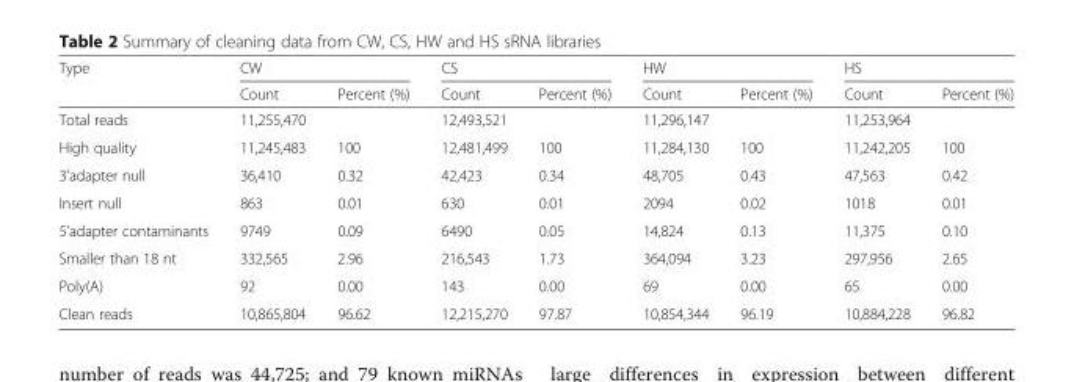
<table><thead><tr><td rowspan="2">Type</td><td colspan="2">CW</td><td colspan="2">CS</td><td colspan="2">HW</td><td colspan="2">HS</td></tr><tr><td>Count</td><td>Percent (%)</td><td>Count</td><td>Percent (%)</td><td>Count</td><td>Percent (%)</td><td>Count</td><td>Percent (%)</td></tr></thead><tbody><tr><td>Total reads</td><td>11,255,470</td><td></td><td>12,493,521</td><td></td><td>11,296,147</td><td></td><td>11,253,964</td><td></td></tr><tr><td>High quality</td><td>11,245,483</td><td>100</td><td>12,481,499</td><td>100</td><td>11,284,130</td><td>100</td><td>11,242,205</td><td>100</td></tr><tr><td>3’adapter null</td><td>36,410</td><td>0.32</td><td>42,423</td><td>0.34</td><td>48,705</td><td>0.43</td><td>47,563</td><td>0.42</td></tr><tr><td>Insert null</td><td>863</td><td>0.01</td><td>630</td><td>0.01</td><td>2094</td><td>0.02</td><td>1018</td><td>0.01</td></tr><tr><td>5’adapter contaminants</td><td>9749</td><td>0.09</td><td>6490</td><td>0.05</td><td>14,824</td><td>0.13</td><td>11,375</td><td>0.10</td></tr><tr><td>Smaller than 18 nt</td><td>332,565</td><td>2.96</td><td>216,543</td><td>1.73</td><td>364,094</td><td>3.23</td><td>297,956</td><td>2.65</td></tr><tr><td>Poly(A)</td><td>92</td><td>0.00</td><td>143</td><td>0.00</td><td>69</td><td>0.00</td><td>65</td><td>0.00</td></tr><tr><td>Clean reads</td><td>10,865,804</td><td>96.62</td><td>12,215,270</td><td>97.87</td><td>10,854,344</td><td>96.19</td><td>10,884,228</td><td>96.82</td></tr></tbody></table>